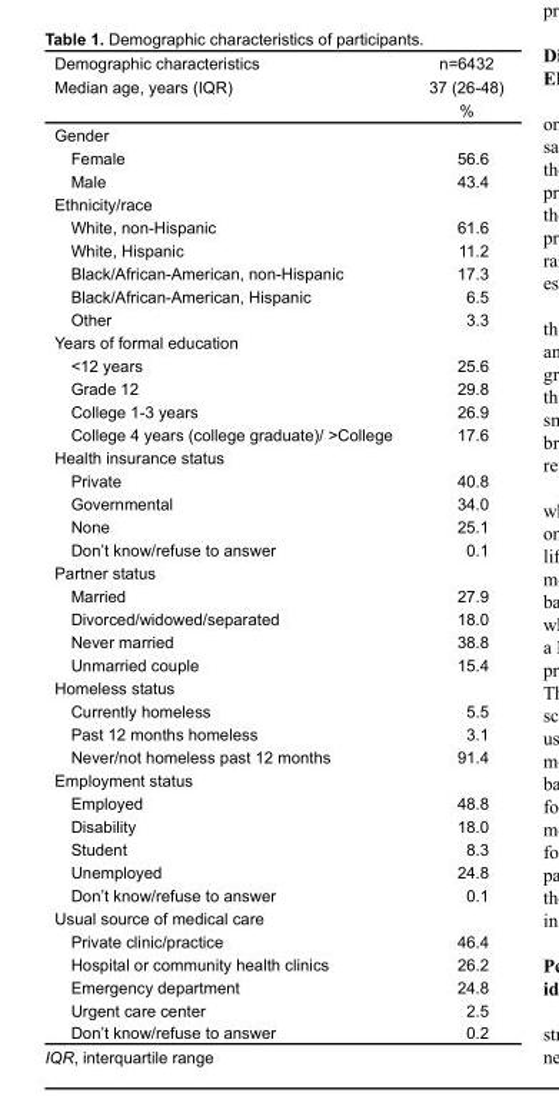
<table><tbody><tr><td>Demographic characteristics</td><td>n=6432</td></tr><tr><td>Median age, years (IQR)</td><td>37 (26-48) %</td></tr><tr><td colspan="2">Gender</td></tr><tr><td>Female</td><td>56.6</td></tr><tr><td>Male</td><td>43.4</td></tr><tr><td colspan="2">Ethnicity/race</td></tr><tr><td>White, non-Hispanic</td><td>61.6</td></tr><tr><td>White, Hispanic</td><td>11.2</td></tr><tr><td>Black/African-American, non-Hispanic</td><td>17.3</td></tr><tr><td>Black/African-American, Hispanic</td><td>6.5</td></tr><tr><td>Other</td><td>3.3</td></tr><tr><td colspan="2">Years of formal education</td></tr><tr><td>&lt;12 years</td><td>25.6</td></tr><tr><td>Grade 12</td><td>29.8</td></tr><tr><td>College 1-3 years</td><td>26.9</td></tr><tr><td>College 4 years (college graduate)/ &gt;College</td><td>17.6</td></tr><tr><td colspan="2">Health insurance status</td></tr><tr><td>Private</td><td>40.8</td></tr><tr><td>Governmental</td><td>34.0</td></tr><tr><td>None</td><td>25.1</td></tr><tr><td>Don’t know/refuse to answer</td><td>0.1</td></tr><tr><td colspan="2">Partner status</td></tr><tr><td>Married</td><td>27.9</td></tr><tr><td>Divorced/widowed/separated</td><td>18.0</td></tr><tr><td>Never married</td><td>38.8</td></tr><tr><td>Unmarried couple</td><td>15.4</td></tr><tr><td colspan="2">Homeless status</td></tr><tr><td>Currently homeless</td><td>5.5</td></tr><tr><td>Past 12 months homeless</td><td>3.1</td></tr><tr><td>Never/not homeless past 12 months</td><td>91.4</td></tr><tr><td colspan="2">Employment status</td></tr><tr><td>Employed</td><td>48.8</td></tr><tr><td>Disability</td><td>18.0</td></tr><tr><td>Student</td><td>8.3</td></tr><tr><td>Unemployed</td><td>24.8</td></tr><tr><td>Don’t know/refuse to answer</td><td>0.1</td></tr><tr><td colspan="2">Usual source of medical care</td></tr><tr><td>Private clinic/practice</td><td>46.4</td></tr><tr><td>Hospital or community health clinics</td><td>26.2</td></tr><tr><td>Emergency department</td><td>24.8</td></tr><tr><td>Urgent care center</td><td>2.5</td></tr><tr><td>Don’t know/refuse to answer</td><td>0.2</td></tr></tbody></table>